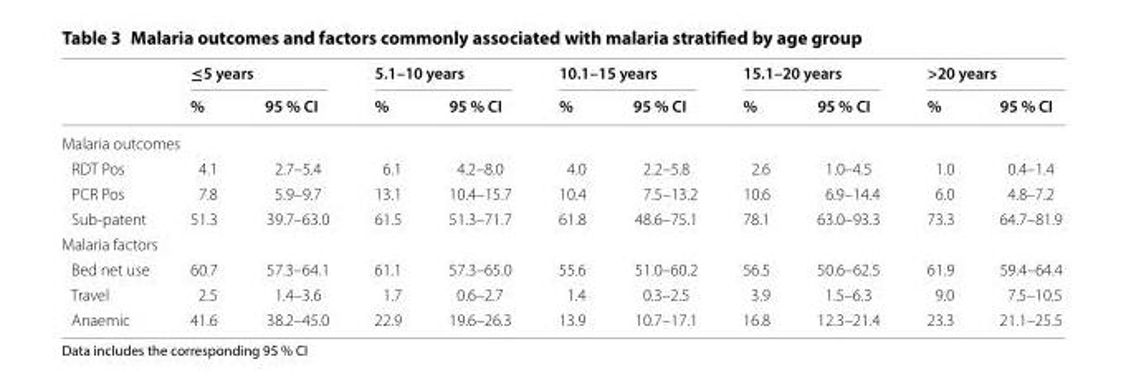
<table><thead><tr><td rowspan="2"></td><td colspan="2">≤5 years</td><td colspan="2">5.1–10 years</td><td colspan="2">10.1–15 years</td><td colspan="2">15.1–20 years</td><td colspan="2">&gt;20 years</td></tr><tr><td>%</td><td>95 % CI</td><td>%</td><td>95 % CI</td><td>%</td><td>95 % CI</td><td>%</td><td>95 % CI</td><td>%</td><td>95 % CI</td></tr></thead><tbody><tr><td colspan="11">Malaria outcomes</td></tr><tr><td>RDT Pos</td><td>4.1</td><td>2.7–5.4</td><td>6.1</td><td>4.2–8.0</td><td>4.0</td><td>2.2–5.8</td><td>2.6</td><td>1.0–4.5</td><td>1.0</td><td>0.4–1.4</td></tr><tr><td>PCR Pos</td><td>7.8</td><td>5.9–9.7</td><td>13.1</td><td>10.4–15.7</td><td>10.4</td><td>7.5–13.2</td><td>10.6</td><td>6.9–14.4</td><td>6.0</td><td>4.8–7.2</td></tr><tr><td>Sub-patent</td><td>51.3</td><td>39.7–63.0</td><td>61.5</td><td>51.3–71.7</td><td>61.8</td><td>48.6–75.1</td><td>78.1</td><td>63.0–93.3</td><td>73.3</td><td>64.7–81.9</td></tr><tr><td colspan="11">Malaria factors</td></tr><tr><td>Bed net use</td><td>60.7</td><td>57.3–64.1</td><td>61.1</td><td>57.3–65.0</td><td>55.6</td><td>51.0–60.2</td><td>56.5</td><td>50.6–62.5</td><td>61.9</td><td>59.4–64.4</td></tr><tr><td>Travel</td><td>2.5</td><td>1.4–3.6</td><td>1.7</td><td>0.6–2.7</td><td>1.4</td><td>0.3–2.5</td><td>3.9</td><td>1.5–6.3</td><td>9.0</td><td>7.5–10.5</td></tr><tr><td>Anaemic</td><td>41.6</td><td>38.2–45.0</td><td>22.9</td><td>19.6–26.3</td><td>13.9</td><td>10.7–17.1</td><td>16.8</td><td>12.3–21.4</td><td>23.3</td><td>21.1–25.5</td></tr></tbody></table>